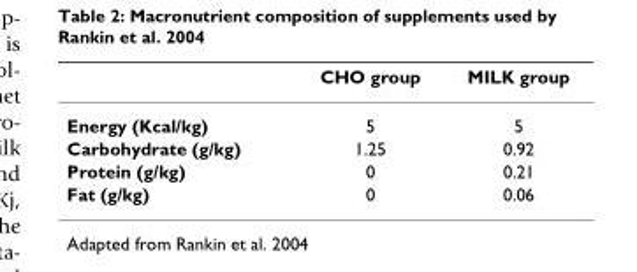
<table><thead><tr><td></td><td>CHO group</td><td>MILK group</td></tr></thead><tbody><tr><td>Energy (Kcal/kg)</td><td>5</td><td>5</td></tr><tr><td>Carbohydrate (g/kg)</td><td>1.25</td><td>0.92</td></tr><tr><td>Protein (g/kg)</td><td>0</td><td>0.21</td></tr><tr><td>Fat (g/kg)</td><td>0</td><td>0.06</td></tr></tbody></table>